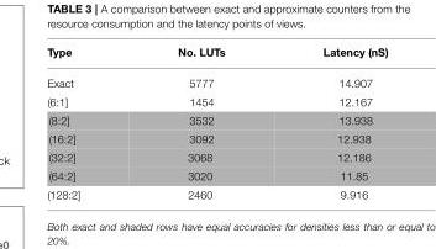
<table><thead><tr><td>Type</td><td>No. LUTs</td><td>Latency (nS)</td></tr></thead><tbody><tr><td>Exact</td><td>5777</td><td>14.907</td></tr><tr><td>(6:1]</td><td>1454</td><td>12.167</td></tr><tr><td>(8:2]</td><td>3532</td><td>13.938</td></tr><tr><td>(16:2]</td><td>3092</td><td>12.938</td></tr><tr><td>(32:2]</td><td>3068</td><td>12.186</td></tr><tr><td>(64:2]</td><td>3020</td><td>11.85</td></tr><tr><td>(128:2]</td><td>2460</td><td>9.916</td></tr></tbody></table>